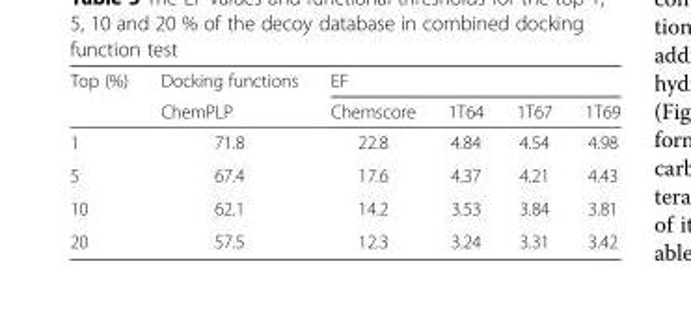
<table><thead><tr><td rowspan="2">Top (%)</td><td rowspan="2">Docking functions ChemPLP</td><td colspan="4">EF</td></tr><tr><td>Chemscore</td><td>1T64</td><td>1T67</td><td>1T69</td></tr></thead><tbody><tr><td>1</td><td>71.8</td><td>22.8</td><td>4.84</td><td>4.54</td><td>4.98</td></tr><tr><td>5</td><td>67.4</td><td>17.6</td><td>4.37</td><td>4.21</td><td>4.43</td></tr><tr><td>10</td><td>62.1</td><td>14.2</td><td>3.53</td><td>3.84</td><td>3.81</td></tr><tr><td>20</td><td>57.5</td><td>12.3</td><td>3.24</td><td>3.31</td><td>3.42</td></tr></tbody></table>